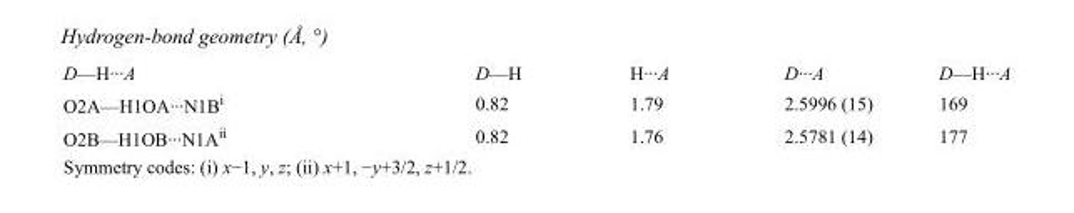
<table><tbody><tr><td>D—H···A</td><td>D—H</td><td>H···A</td><td>D···A</td><td>D—H···A</td></tr><tr><td>O2A—H1OA···N1B<sup>i</sup></td><td>0.82</td><td>1.79</td><td>2.5996 (15)</td><td>169</td></tr><tr><td>O2B—H1OB···N1A<sup>ii</sup></td><td>0.82</td><td>1.76</td><td>2.5781 (14)</td><td>177</td></tr></tbody></table>